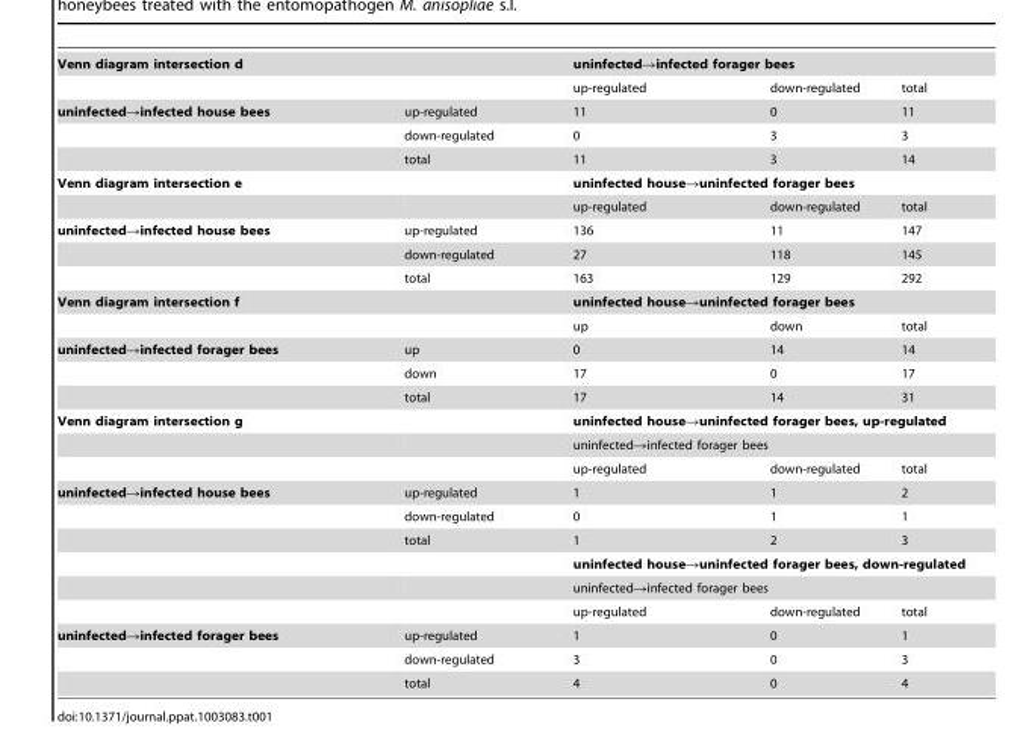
<table><tbody><tr><td colspan="2">Venn diagram intersection d</td><td colspan="3">uninfected→infected forager bees</td></tr><tr><td></td><td></td><td>up-regulated</td><td>down-regulated</td><td>total</td></tr><tr><td rowspan="3">uninfected→infected house bees</td><td>up-regulated</td><td>11</td><td>0</td><td>11</td></tr><tr><td>down-regulated</td><td>0</td><td>3</td><td>3</td></tr><tr><td>total</td><td>11</td><td>3</td><td>14</td></tr><tr><td colspan="2">Venn diagram intersection e</td><td colspan="3">uninfected house→uninfected forager bees</td></tr><tr><td></td><td></td><td>up-regulated</td><td>down-regulated</td><td>total</td></tr><tr><td rowspan="3">uninfected→infected house bees</td><td>up-regulated</td><td>136</td><td>11</td><td>147</td></tr><tr><td>down-regulated</td><td>27</td><td>118</td><td>145</td></tr><tr><td>total</td><td>163</td><td>129</td><td>292</td></tr><tr><td colspan="2">Venn diagram intersection f</td><td colspan="3">uninfected house→uninfected forager bees</td></tr><tr><td></td><td></td><td>up</td><td>down</td><td>total</td></tr><tr><td rowspan="3">uninfected→infected forager bees</td><td>up</td><td>0</td><td>14</td><td>14</td></tr><tr><td>down</td><td>17</td><td>0</td><td>17</td></tr><tr><td>total</td><td>17</td><td>14</td><td>31</td></tr><tr><td colspan="2">Venn diagram intersection g</td><td colspan="3">uninfected house→uninfected forager bees, up-regulated</td></tr><tr><td></td><td></td><td colspan="3">uninfected→infected forager bees</td></tr><tr><td></td><td></td><td>up-regulated</td><td>down-regulated</td><td>total</td></tr><tr><td rowspan="6">uninfected→infected house bees</td><td>up-regulated</td><td>1</td><td>1</td><td>2</td></tr><tr><td>down-regulated</td><td>0</td><td>1</td><td>1</td></tr><tr><td>total</td><td>1</td><td>2</td><td>3</td></tr><tr><td></td><td colspan="3">uninfected house→uninfected forager bees, down-regulated</td></tr><tr><td></td><td colspan="3">uninfected→infected forager bees</td></tr><tr><td></td><td>up-regulated</td><td>down-regulated</td><td>total</td></tr><tr><td rowspan="3">uninfected→infected forager bees</td><td>up-regulated</td><td>1</td><td>0</td><td>1</td></tr><tr><td>down-regulated</td><td>3</td><td>0</td><td>3</td></tr><tr><td>total</td><td>4</td><td>0</td><td>4</td></tr></tbody></table>